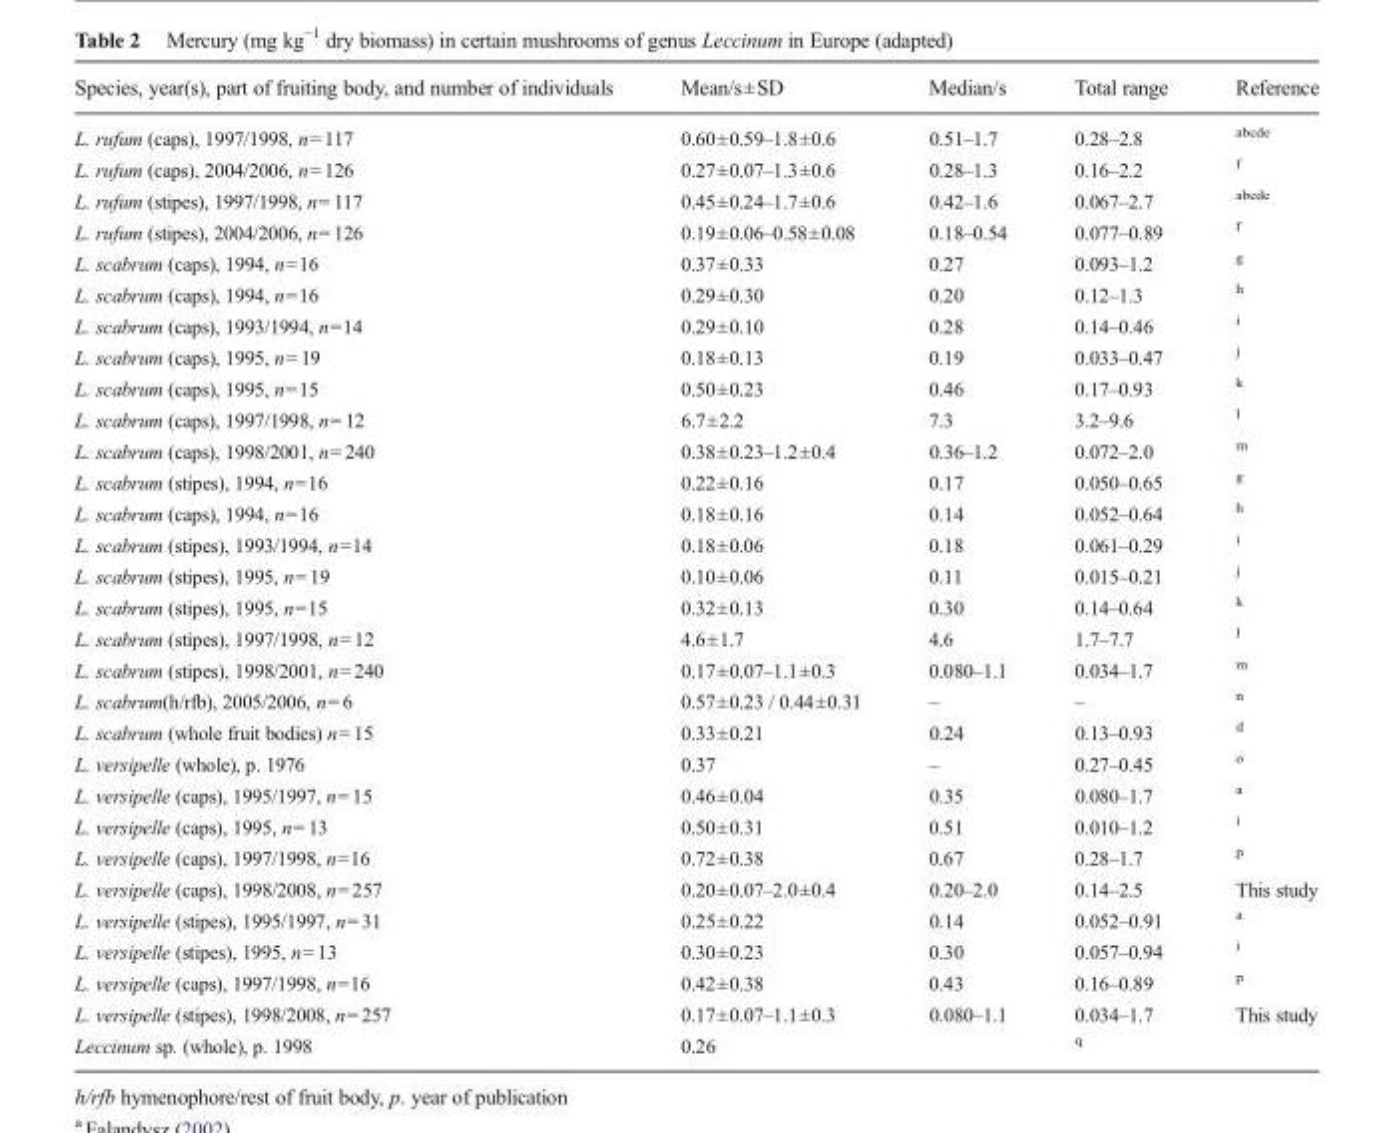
<table><thead><tr><td>Species, year(s), part of fruiting body, and number of individuals</td><td>Mean/s±SD</td><td>Median/s</td><td>Total range</td><td>Reference</td></tr></thead><tbody><tr><td>L. rufum (caps), 1997/1998, n=117</td><td>0.60±0.59–1.8±0.6</td><td>0.51–1.7</td><td>0.28–2.8</td><td><sup>abcde</sup></td></tr><tr><td>L. rufum (caps), 2004/2006, n=126</td><td>0.27±0.07–1.3±0.6</td><td>0.28–1.3</td><td>0.16–2.2</td><td><sup>f</sup></td></tr><tr><td>L. rufum (stipes), 1997/1998, n=117</td><td>0.45±0.24–1.7±0.6</td><td>0.42–1.6</td><td>0.067–2.7</td><td><sup>abcde</sup></td></tr><tr><td>L. rufum (stipes), 2004/2006, n=126</td><td>0.19±0.06–0.58±0.08</td><td>0.18–0.54</td><td>0.077–0.89</td><td><sup>f</sup></td></tr><tr><td>L. scabrum (caps), 1994, n=16</td><td>0.37±0.33</td><td>0.27</td><td>0.093–1.2</td><td><sup>g</sup></td></tr><tr><td>L. scabrum (caps), 1994, n=16</td><td>0.29±0.30</td><td>0.20</td><td>0.12–1.3</td><td><sup>h</sup></td></tr><tr><td>L. scabrum (caps), 1993/1994, n=14</td><td>0.29±0.10</td><td>0.28</td><td>0.14–0.46</td><td><sup>i</sup></td></tr><tr><td>L. scabrum (caps), 1995, n=19</td><td>0.18±0.13</td><td>0.19</td><td>0.033–0.47</td><td><sup>j</sup></td></tr><tr><td>L. scabrum (caps), 1995, n=15</td><td>0.50±0.23</td><td>0.46</td><td>0.17–0.93</td><td><sup>k</sup></td></tr><tr><td>L. scabrum (caps), 1997/1998, n=12</td><td>6.7±2.2</td><td>7.3</td><td>3.2–9.6</td><td><sup>l</sup></td></tr><tr><td>L. scabrum (caps), 1998/2001, n=240</td><td>0.38±0.23–1.2±0.4</td><td>0.36–1.2</td><td>0.072–2.0</td><td><sup>m</sup></td></tr><tr><td>L. scabrum (stipes), 1994, n=16</td><td>0.22±0.16</td><td>0.17</td><td>0.050–0.65</td><td><sup>g</sup></td></tr><tr><td>L. scabrum (caps), 1994, n=16</td><td>0.18±0.16</td><td>0.14</td><td>0.052–0.64</td><td><sup>h</sup></td></tr><tr><td>L. scabrum (stipes), 1993/1994, n=14</td><td>0.18±0.06</td><td>0.18</td><td>0.061–0.29</td><td><sup>i</sup></td></tr><tr><td>L. scabrum (stipes), 1995, n=19</td><td>0.10±0.06</td><td>0.11</td><td>0.015–0.21</td><td><sup>j</sup></td></tr><tr><td>L. scabrum (stipes), 1995, n=15</td><td>0.32±0.13</td><td>0.30</td><td>0.14–0.64</td><td><sup>k</sup></td></tr><tr><td>L. scabrum (stipes), 1997/1998, n=12</td><td>4.6±1.7</td><td>4.6</td><td>1.7–7.7</td><td><sup>l</sup></td></tr><tr><td>L. scabrum (stipes), 1998/2001, n=240</td><td>0.17±0.07–1.1±0.3</td><td>0.080–1.1</td><td>0.034–1.7</td><td><sup>m</sup></td></tr><tr><td>L. scabrum(h/rfb), 2005/2006, n=6</td><td>0.57±0.23 / 0.44±0.31</td><td>–</td><td>–</td><td><sup>n</sup></td></tr><tr><td>L. scabrum (whole fruit bodies) n=15</td><td>0.33±0.21</td><td>0.24</td><td>0.13–0.93</td><td><sup>d</sup></td></tr><tr><td>L. versipelle (whole), p. 1976</td><td>0.37</td><td>–</td><td>0.27–0.45</td><td><sup>o</sup></td></tr><tr><td>L. versipelle (caps), 1995/1997, n=15</td><td>0.46±0.04</td><td>0.35</td><td>0.080–1.7</td><td><sup>a</sup></td></tr><tr><td>L. versipelle (caps), 1995, n=13</td><td>0.50±0.31</td><td>0.51</td><td>0.010–1.2</td><td><sup>i</sup></td></tr><tr><td>L. versipelle (caps), 1997/1998, n=16</td><td>0.72±0.38</td><td>0.67</td><td>0.28–1.7</td><td><sup>p</sup></td></tr><tr><td>L. versipelle (caps), 1998/2008, n=257</td><td>0.20±0.07–2.0±0.4</td><td>0.20–2.0</td><td>0.14–2.5</td><td>This study</td></tr><tr><td>L. versipelle (stipes), 1995/1997, n=31</td><td>0.25±0.22</td><td>0.14</td><td>0.052–0.91</td><td><sup>a</sup></td></tr><tr><td>L. versipelle (stipes), 1995, n=13</td><td>0.30±0.23</td><td>0.30</td><td>0.057–0.94</td><td><sup>i</sup></td></tr><tr><td>L. versipelle (caps), 1997/1998, n=16</td><td>0.42±0.38</td><td>0.43</td><td>0.16–0.89</td><td><sup>p</sup></td></tr><tr><td>L. versipelle (stipes), 1998/2008, n=257</td><td>0.17±0.07–1.1±0.3</td><td>0.080–1.1</td><td>0.034–1.7</td><td>This study</td></tr><tr><td>Leccinum sp. (whole), p. 1998</td><td>0.26</td><td></td><td><sup>q</sup></td><td></td></tr></tbody></table>